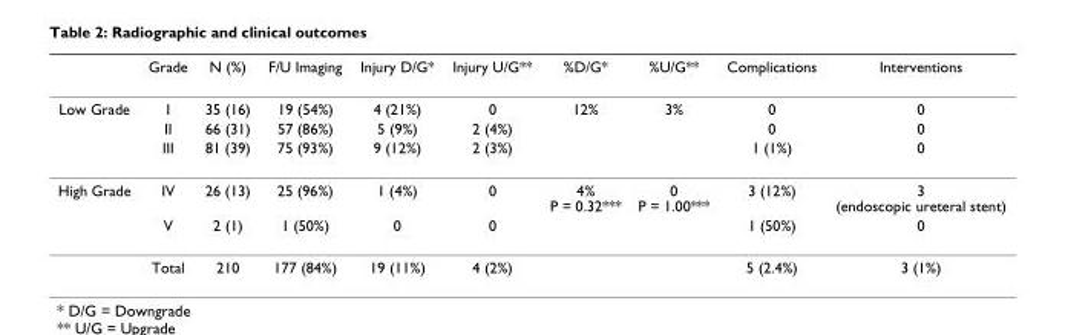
<table><thead><tr><td></td><td>Grade</td><td>N (%)</td><td>F/U Imaging</td><td>Injury D/G*</td><td>Injury U/G**</td><td>%D/G*</td><td>%U/G**</td><td>Complications</td><td>Interventions</td></tr></thead><tbody><tr><td rowspan="3">Low Grade</td><td>I</td><td>35 (16)</td><td>19 (54%)</td><td>4 (21%)</td><td>0</td><td>12%</td><td>3%</td><td>0</td><td>0</td></tr><tr><td>II</td><td>66 (31)</td><td>57 (86%)</td><td>5 (9%)</td><td>2 (4%)</td><td></td><td></td><td>0</td><td>0</td></tr><tr><td>III</td><td>81 (39)</td><td>75 (93%)</td><td>9 (12%)</td><td>2 (3%)</td><td></td><td></td><td>1 (1%)</td><td>0</td></tr><tr><td rowspan="3">High Grade</td><td>IV</td><td>26 (13)</td><td>25 (96%)</td><td>1 (4%)</td><td>0</td><td>4% P = 0.32***</td><td>0 P = 1.00***</td><td>3 (12%)</td><td>3 (endoscopic ureteral stent)</td></tr><tr><td>V</td><td>2 (1)</td><td>1 (50%)</td><td>0</td><td>0</td><td></td><td></td><td>1 (50%)</td><td>0</td></tr><tr><td>Total</td><td>210</td><td>177 (84%)</td><td>19 (11%)</td><td>4 (2%)</td><td></td><td></td><td>5 (2.4%)</td><td>3 (1%)</td></tr></tbody></table>